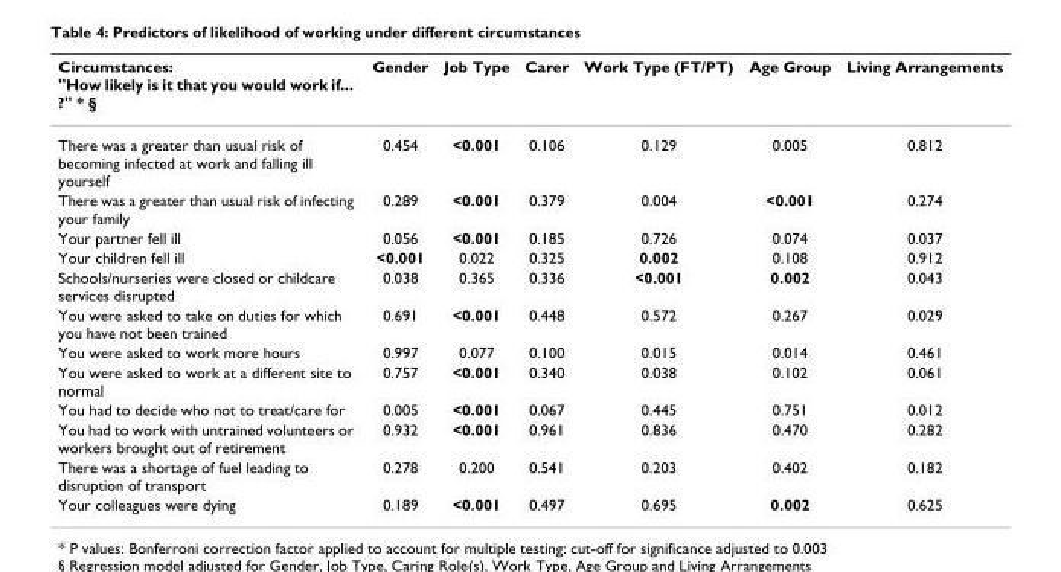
<table><thead><tr><td>Circumstances: &quot;How likely is it that you would work if... ?&quot; * §</td><td>Gender</td><td>Job Type</td><td>Carer</td><td>Work Type (FT/PT)</td><td>Age Group</td><td>Living Arrangements</td></tr></thead><tbody><tr><td>There was a greater than usual risk of becoming infected at work and falling ill yourself</td><td>0.454</td><td>&lt;0.001</td><td>0.106</td><td>0.129</td><td>0.005</td><td>0.812</td></tr><tr><td>There was a greater than usual risk of infecting your family</td><td>0.289</td><td>&lt;0.001</td><td>0.379</td><td>0.004</td><td>&lt;0.001</td><td>0.274</td></tr><tr><td>Your partner fell ill</td><td>0.056</td><td>&lt;0.001</td><td>0.185</td><td>0.726</td><td>0.074</td><td>0.037</td></tr><tr><td>Your children fell ill</td><td>&lt;0.001</td><td>0.022</td><td>0.325</td><td>0.002</td><td>0.108</td><td>0.912</td></tr><tr><td>Schools/nurseries were closed or childcare services disrupted</td><td>0.038</td><td>0.365</td><td>0.336</td><td>&lt;0.001</td><td>0.002</td><td>0.043</td></tr><tr><td>You were asked to take on duties for which you have not been trained</td><td>0.691</td><td>&lt;0.001</td><td>0.448</td><td>0.572</td><td>0.267</td><td>0.029</td></tr><tr><td>You were asked to work more hours</td><td>0.997</td><td>0.077</td><td>0.100</td><td>0.015</td><td>0.014</td><td>0.461</td></tr><tr><td>You were asked to work at a different site to normal</td><td>0.757</td><td>&lt;0.001</td><td>0.340</td><td>0.038</td><td>0.102</td><td>0.061</td></tr><tr><td>You had to decide who not to treat/care for</td><td>0.005</td><td>&lt;0.001</td><td>0.067</td><td>0.445</td><td>0.751</td><td>0.012</td></tr><tr><td>You had to work with untrained volunteers or workers brought out of retirement</td><td>0.932</td><td>&lt;0.001</td><td>0.961</td><td>0.836</td><td>0.470</td><td>0.282</td></tr><tr><td>There was a shortage of fuel leading to disruption of transport</td><td>0.278</td><td>0.200</td><td>0.541</td><td>0.203</td><td>0.402</td><td>0.182</td></tr><tr><td>Your colleagues were dying</td><td>0.189</td><td>&lt;0.001</td><td>0.497</td><td>0.695</td><td>0.002</td><td>0.625</td></tr></tbody></table>